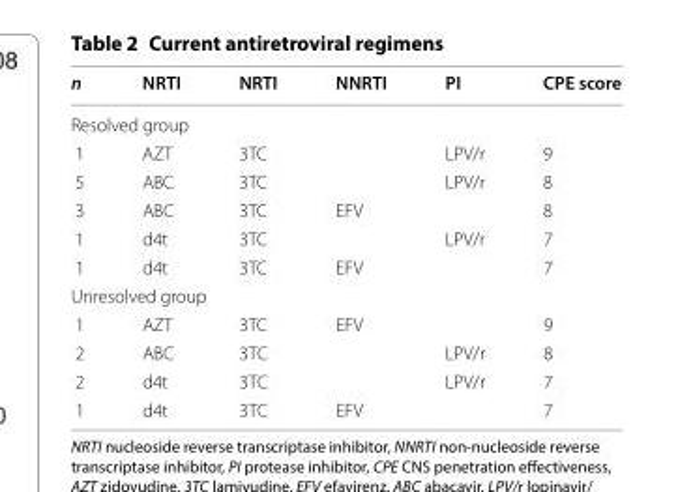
<table><thead><tr><td>n</td><td>NRTI</td><td>NRTI</td><td>NNRTI</td><td>PI</td><td>CPE score</td></tr></thead><tbody><tr><td colspan="6">Resolved group</td></tr><tr><td>1</td><td>AZT</td><td>3TC</td><td></td><td>LPV/r</td><td>9</td></tr><tr><td>5</td><td>ABC</td><td>3TC</td><td></td><td>LPV/r</td><td>8</td></tr><tr><td>3</td><td>ABC</td><td>3TC</td><td>EFV</td><td></td><td>8</td></tr><tr><td>1</td><td>d4t</td><td>3TC</td><td></td><td>LPV/r</td><td>7</td></tr><tr><td>1</td><td>d4t</td><td>3TC</td><td>EFV</td><td></td><td>7</td></tr><tr><td colspan="6">Unresolved group</td></tr><tr><td>1</td><td>AZT</td><td>3TC</td><td>EFV</td><td></td><td>9</td></tr><tr><td>2</td><td>ABC</td><td>3TC</td><td></td><td>LPV/r</td><td>8</td></tr><tr><td>2</td><td>d4t</td><td>3TC</td><td></td><td>LPV/r</td><td>7</td></tr><tr><td>1</td><td>d4t</td><td>3TC</td><td>EFV</td><td></td><td>7</td></tr></tbody></table>